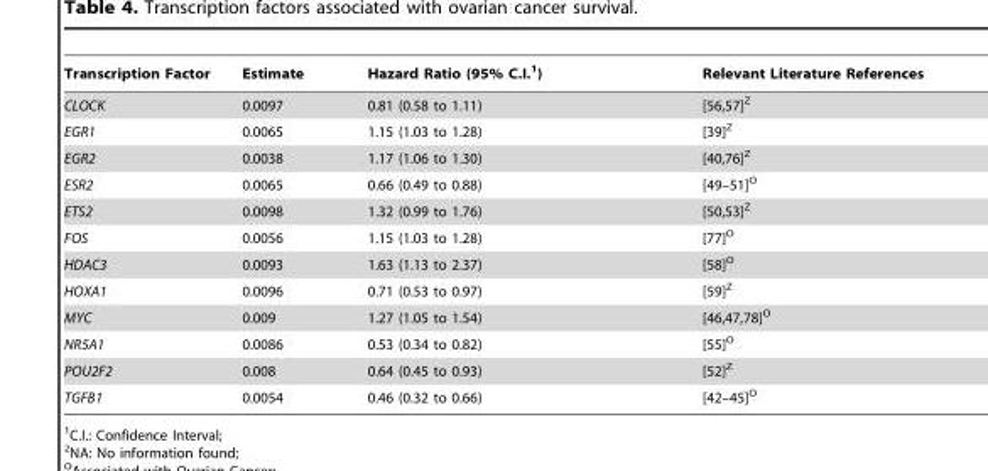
<table><thead><tr><td>Transcription Factor</td><td>Estimate</td><td>Hazard Ratio (95% C.I.<sup>1</sup>)</td><td>Relevant Literature References</td></tr></thead><tbody><tr><td>CLOCK</td><td>0.0097</td><td>0.81 (0.58 to 1.11)</td><td>[56,57]Z</td></tr><tr><td>EGR1</td><td>0.0065</td><td>1.15 (1.03 to 1.28)</td><td>[39]Z</td></tr><tr><td>EGR2</td><td>0.0038</td><td>1.17 (1.06 to 1.30)</td><td>[40,76]Z</td></tr><tr><td>ESR2</td><td>0.0065</td><td>0.66 (0.49 to 0.88)</td><td>[49–51]O</td></tr><tr><td>ETS2</td><td>0.0098</td><td>1.32 (0.99 to 1.76)</td><td>[50,53]Z</td></tr><tr><td>FOS</td><td>0.0056</td><td>1.15 (1.03 to 1.28)</td><td>[77]O</td></tr><tr><td>HDAC3</td><td>0.0093</td><td>1.63 (1.13 to 2.37)</td><td>[58]O</td></tr><tr><td>HOXA1</td><td>0.0096</td><td>0.71 (0.53 to 0.97)</td><td>[59]Z</td></tr><tr><td>MYC</td><td>0.009</td><td>1.27 (1.05 to 1.54)</td><td>[46,47,78]O</td></tr><tr><td>NR5A1</td><td>0.0086</td><td>0.53 (0.34 to 0.82)</td><td>[55]O</td></tr><tr><td>POU2F2</td><td>0.008</td><td>0.64 (0.45 to 0.93)</td><td>[52]Z</td></tr><tr><td>TGFB1</td><td>0.0054</td><td>0.46 (0.32 to 0.66)</td><td>[42–45]O</td></tr></tbody></table>